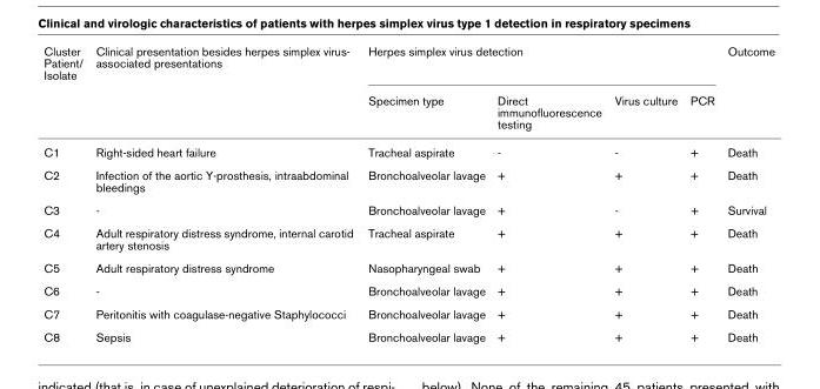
<table><thead><tr><td rowspan="2">Cluster Patient/ Isolate</td><td rowspan="2">Clinical presentation besides herpes simplex virus- associated presentations</td><td colspan="4">Herpes simplex virus detection</td><td rowspan="2">Outcome</td></tr><tr><td>Specimen type</td><td>Direct immunofluorescence testing</td><td>Virus culture</td><td>PCR</td></tr></thead><tbody><tr><td>C1</td><td>Right-sided heart failure</td><td>Tracheal aspirate</td><td>-</td><td>-</td><td>+</td><td>Death</td></tr><tr><td>C2</td><td>Infection of the aortic Y-prosthesis, intraabdominal bleedings</td><td>Bronchoalveolar lavage</td><td>+</td><td>+</td><td>+</td><td>Death</td></tr><tr><td>C3</td><td>-</td><td>Bronchoalveolar lavage</td><td>+</td><td>-</td><td>+</td><td>Survival</td></tr><tr><td>C4</td><td>Adult respiratory distress syndrome, internal carotid artery stenosis</td><td>Tracheal aspirate</td><td>+</td><td>+</td><td>+</td><td>Death</td></tr><tr><td>C5</td><td>Adult respiratory distress syndrome</td><td>Nasopharyngeal swab</td><td>+</td><td>+</td><td>+</td><td>Death</td></tr><tr><td>C6</td><td>-</td><td>Bronchoalveolar lavage</td><td>+</td><td>+</td><td>+</td><td>Death</td></tr><tr><td>C7</td><td>Peritonitis with coagulase-negative Staphylococci</td><td>Bronchoalveolar lavage</td><td>+</td><td>+</td><td>+</td><td>Death</td></tr><tr><td>C8</td><td>Sepsis</td><td>Bronchoalveolar lavage</td><td>+</td><td>+</td><td>+</td><td>Death</td></tr></tbody></table>